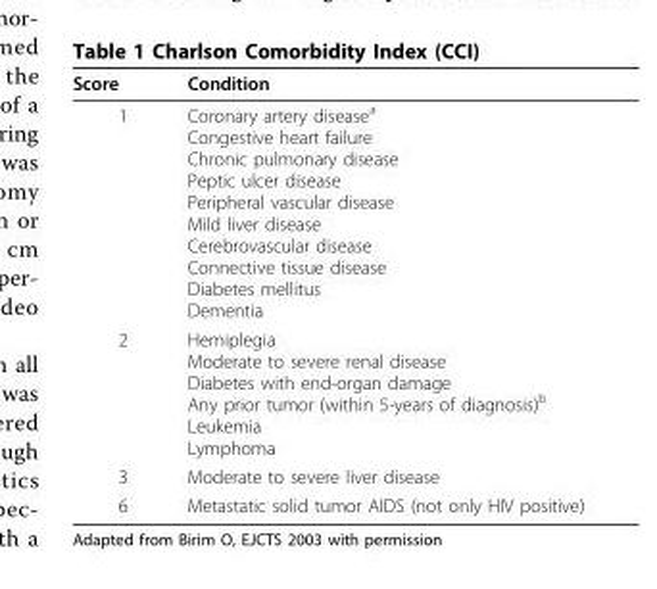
<table><thead><tr><td>Score</td><td>Condition</td></tr></thead><tbody><tr><td>1</td><td>Coronary artery disease<sup>a</sup> Congestive heart failure Chronic pulmonary disease Peptic ulcer disease Peripheral vascular disease Mild liver disease Cerebrovascular disease Connective tissue disease Diabetes mellitus Dementia</td></tr><tr><td>2</td><td>Hemiplegia Moderate to severe renal disease Diabetes with end-organ damage Any prior tumor (within 5-years of diagnosis)<sup>b</sup> Leukemia Lymphoma</td></tr><tr><td>3</td><td>Moderate to severe liver disease</td></tr><tr><td>6</td><td>Metastatic solid tumor AIDS (not only HIV positive)</td></tr></tbody></table>